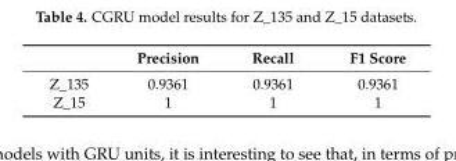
<table><thead><tr><td></td><td>Precision</td><td>Recall</td><td>F1 Score</td></tr></thead><tbody><tr><td>Z_135</td><td>0.9361</td><td>0.9361</td><td>0.9361</td></tr><tr><td>Z_15</td><td>1</td><td>1</td><td>1</td></tr></tbody></table>